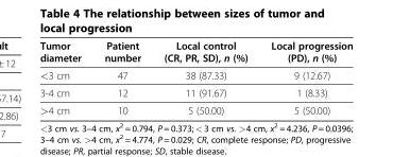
<table><thead><tr><td>Tumor diameter</td><td>Patient number</td><td>Local control (CR, PR, SD), n (%)</td><td>Local progression (PD), n (%)</td></tr></thead><tbody><tr><td>&lt;3 cm</td><td>47</td><td>38 (87.33)</td><td>9 (12.67)</td></tr><tr><td>3-4 cm</td><td>12</td><td>11 (91.67)</td><td>1 (8.33)</td></tr><tr><td>&gt;4 cm</td><td>10</td><td>5 (50.00)</td><td>5 (50.00)</td></tr></tbody></table>